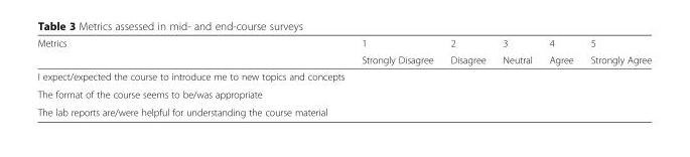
<table><thead><tr><td rowspan="2">Metrics</td><td rowspan="2">1 Strongly Disagree</td><td rowspan="2">2 Disagree</td><td rowspan="2">3 Neutral</td><td rowspan="2">4 Agree</td><td rowspan="2">5 Strongly Agree</td></tr><tr></tr></thead><tbody><tr><td colspan="6">I expect/expected the course to introduce me to new topics and concepts</td></tr><tr><td colspan="6">The format of the course seems to be/was appropriate</td></tr><tr><td>The lab reports are/were helpful for understanding the course material</td><td colspan="5"></td></tr></tbody></table>